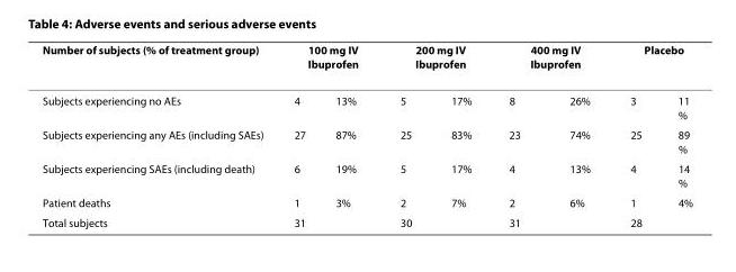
<table><thead><tr><td rowspan="2">Number of subjects (% of treatment group) Subjects experiencing no AEs</td><td colspan="2">100 mg IV Ibuprofen</td><td colspan="2">200 mg IV Ibuprofen</td><td colspan="2">400 mg IV Ibuprofen</td><td colspan="2">Placebo</td></tr><tr><td>4</td><td>13%</td><td>5</td><td>17%</td><td>8</td><td>26%</td><td>3</td><td>11 %</td></tr></thead><tbody><tr><td>Subjects experiencing any AEs (including SAEs)</td><td>27</td><td>87%</td><td>25</td><td>83%</td><td>23</td><td>74%</td><td>25</td><td>89 %</td></tr><tr><td>Subjects experiencing SAEs (including death)</td><td>6</td><td>19%</td><td>5</td><td>17%</td><td>4</td><td>13%</td><td>4</td><td>14 %</td></tr><tr><td>Patient deaths</td><td>1</td><td>3%</td><td>2</td><td>7%</td><td>2</td><td>6%</td><td>1</td><td>4%</td></tr><tr><td>Total subjects</td><td>31</td><td></td><td>30</td><td></td><td>31</td><td></td><td>28</td><td></td></tr></tbody></table>